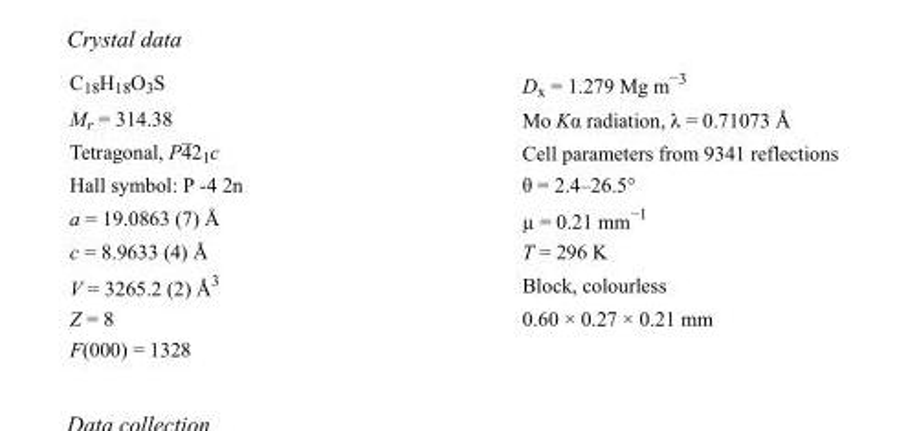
<table><tbody><tr><td>C<sub>18</sub>H<sub>18</sub>O<sub>3</sub>S</td><td>D<sub>x</sub> = 1.279 Mg m<sup>−3</sup></td></tr><tr><td>M<sub>r</sub> = 314.38</td><td>Mo Kα radiation, λ = 0.71073 Å</td></tr><tr><td>Tetragonal, P42<sub>1</sub>c</td><td>Cell parameters from 9341 reflections</td></tr><tr><td>Hall symbol: P -4 2n</td><td>θ = 2.4–26.5°</td></tr><tr><td>a = 19.0863 (7) Å</td><td>µ = 0.21 mm<sup>−1</sup></td></tr><tr><td>c = 8.9633 (4) Å</td><td>T = 296 K</td></tr><tr><td>V = 3265.2 (2) Å<sup>3</sup></td><td>Block, colourless</td></tr><tr><td>Z = 8</td><td>0.60 × 0.27 × 0.21 mm</td></tr><tr><td>F(000) = 1328</td><td></td></tr></tbody></table>